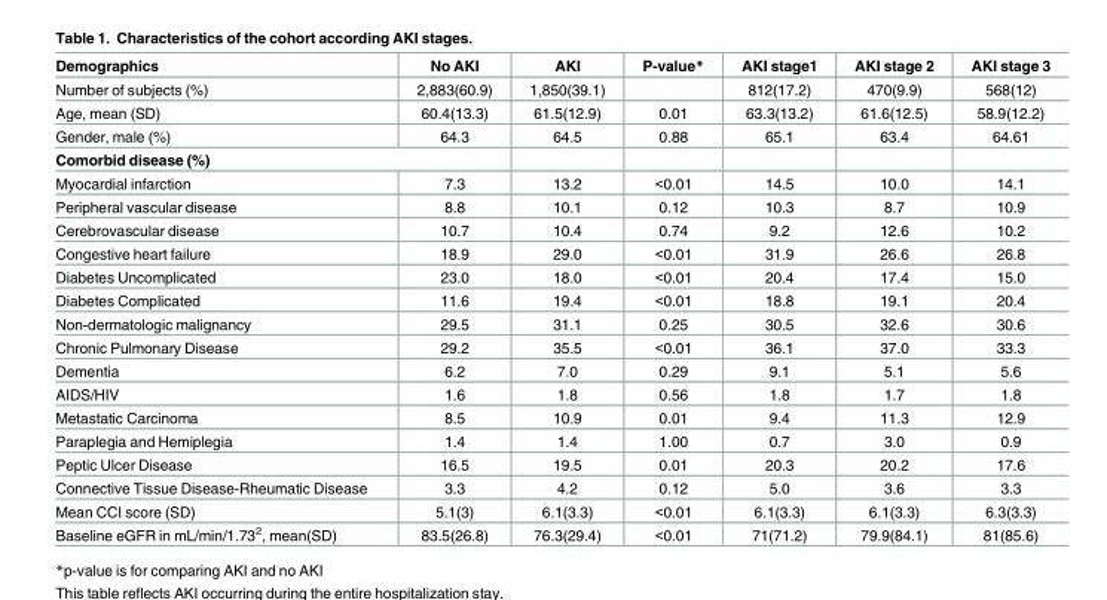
<table><thead><tr><td>Demographics</td><td>No AKI</td><td>AKI</td><td>P-value*</td><td>AKI stage1</td><td>AKI stage 2</td><td>AKI stage 3</td></tr></thead><tbody><tr><td>Number of subjects (%)</td><td>2,883(60.9)</td><td>1,850(39.1)</td><td></td><td>812(17.2)</td><td>470(9.9)</td><td>568(12)</td></tr><tr><td>Age, mean (SD)</td><td>60.4(13.3)</td><td>61.5(12.9)</td><td>0.01</td><td>63.3(13.2)</td><td>61.6(12.5)</td><td>58.9(12.2)</td></tr><tr><td>Gender, male (%)</td><td>64.3</td><td>64.5</td><td>0.88</td><td>65.1</td><td>63.4</td><td>64.61</td></tr><tr><td colspan="7">Comorbid disease (%)</td></tr><tr><td>Myocardial infarction</td><td>7.3</td><td>13.2</td><td>&lt;0.01</td><td>14.5</td><td>10.0</td><td>14.1</td></tr><tr><td>Peripheral vascular disease</td><td>8.8</td><td>10.1</td><td>0.12</td><td>10.3</td><td>8.7</td><td>10.9</td></tr><tr><td>Cerebrovascular disease</td><td>10.7</td><td>10.4</td><td>0.74</td><td>9.2</td><td>12.6</td><td>10.2</td></tr><tr><td>Congestive heart failure</td><td>18.9</td><td>29.0</td><td>&lt;0.01</td><td>31.9</td><td>26.6</td><td>26.8</td></tr><tr><td>Diabetes Uncomplicated</td><td>23.0</td><td>18.0</td><td>&lt;0.01</td><td>20.4</td><td>17.4</td><td>15.0</td></tr><tr><td>Diabetes Complicated</td><td>11.6</td><td>19.4</td><td>&lt;0.01</td><td>18.8</td><td>19.1</td><td>20.4</td></tr><tr><td>Non-dermatologic malignancy</td><td>29.5</td><td>31.1</td><td>0.25</td><td>30.5</td><td>32.6</td><td>30.6</td></tr><tr><td>Chronic Pulmonary Disease</td><td>29.2</td><td>35.5</td><td>&lt;0.01</td><td>36.1</td><td>37.0</td><td>33.3</td></tr><tr><td>Dementia</td><td>6.2</td><td>7.0</td><td>0.29</td><td>9.1</td><td>5.1</td><td>5.6</td></tr><tr><td>AIDS/HIV</td><td>1.6</td><td>1.8</td><td>0.56</td><td>1.8</td><td>1.7</td><td>1.8</td></tr><tr><td>Metastatic Carcinoma</td><td>8.5</td><td>10.9</td><td>0.01</td><td>9.4</td><td>11.3</td><td>12.9</td></tr><tr><td>Paraplegia and Hemiplegia</td><td>1.4</td><td>1.4</td><td>1.00</td><td>0.7</td><td>3.0</td><td>0.9</td></tr><tr><td>Peptic Ulcer Disease</td><td>16.5</td><td>19.5</td><td>0.01</td><td>20.3</td><td>20.2</td><td>17.6</td></tr><tr><td>Connective Tissue Disease-Rheumatic Disease</td><td>3.3</td><td>4.2</td><td>0.12</td><td>5.0</td><td>3.6</td><td>3.3</td></tr><tr><td>Mean CCI score (SD)</td><td>5.1(3)</td><td>6.1(3.3)</td><td>&lt;0.01</td><td>6.1(3.3)</td><td>6.1(3.3)</td><td>6.3(3.3)</td></tr><tr><td>Baseline eGFR in mL/min/1.73<sup>2</sup>, mean(SD)</td><td>83.5(26.8)</td><td>76.3(29.4)</td><td>&lt;0.01</td><td>71(71.2)</td><td>79.9(84.1)</td><td>81(85.6)</td></tr></tbody></table>